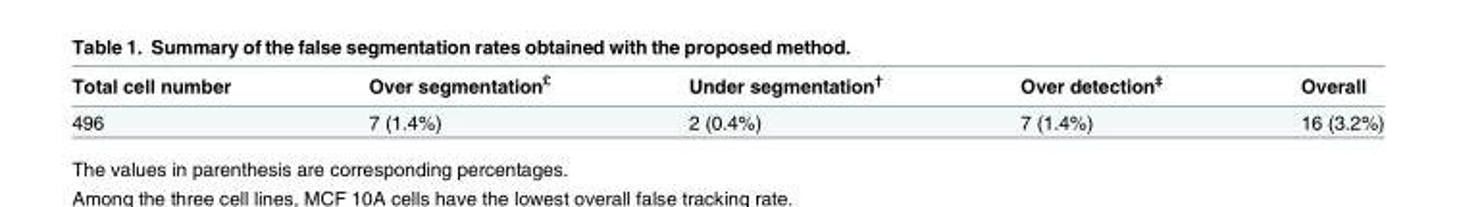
<table><thead><tr><td>Total cell number</td><td>Over segmentation<sup>£</sup></td><td>Under segmentation<sup>†</sup></td><td>Over detection<sup>‡</sup></td><td>Overall</td></tr></thead><tbody><tr><td>496</td><td>7 (1.4%)</td><td>2 (0.4%)</td><td>7 (1.4%)</td><td>16 (3.2%)</td></tr></tbody></table>